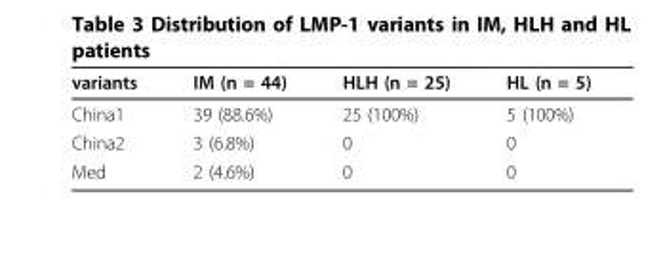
<table><thead><tr><td>variants</td><td>IM (n = 44)</td><td>HLH (n = 25)</td><td>HL (n = 5)</td></tr></thead><tbody><tr><td>China1</td><td>39 (88.6%)</td><td>25 (100%)</td><td>5 (100%)</td></tr><tr><td>China2</td><td>3 (6.8%)</td><td>0</td><td>0</td></tr><tr><td>Med</td><td>2 (4.6%)</td><td>0</td><td>0</td></tr></tbody></table>